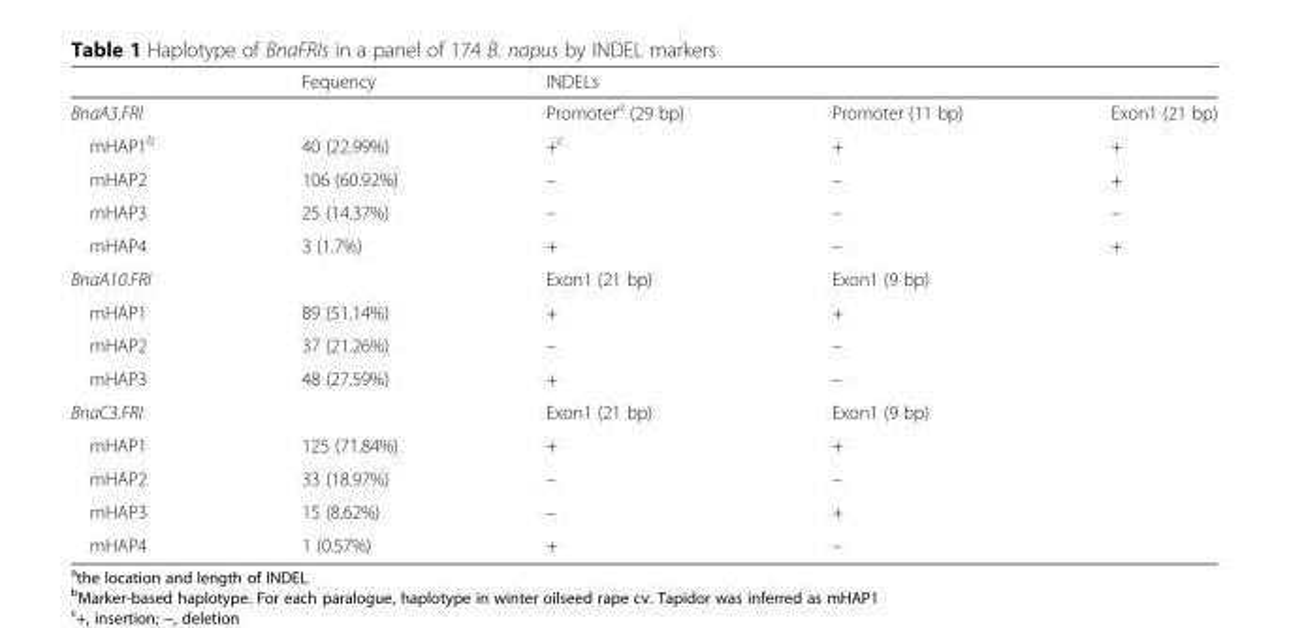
<table><thead><tr><td rowspan="2">BnaA3.FRI</td><td rowspan="2">Fequency</td><td colspan="3">INDELs</td></tr><tr><td>Promoter<sup>a</sup> (29 bp)</td><td>Promoter (11 bp)</td><td>Exon1 (21 bp)</td></tr></thead><tbody><tr><td>mHAP1<sup>b</sup></td><td>40 (22.99%)</td><td>+<sup>c</sup></td><td>+</td><td>+</td></tr><tr><td>mHAP2</td><td>106 (60.92%)</td><td>–</td><td>–</td><td>+</td></tr><tr><td>mHAP3</td><td>25 (14.37%)</td><td>–</td><td>–</td><td>–</td></tr><tr><td>mHAP4</td><td>3 (1.7%)</td><td>+</td><td>–</td><td>+</td></tr><tr><td>BnaA10.FRI</td><td></td><td>Exon1 (21 bp)</td><td>Exon1 (9 bp)</td><td></td></tr><tr><td>mHAP1</td><td>89 (51.14%)</td><td>+</td><td>+</td><td></td></tr><tr><td>mHAP2</td><td>37 (21.26%)</td><td>–</td><td>–</td><td></td></tr><tr><td>mHAP3</td><td>48 (27.59%)</td><td>+</td><td>–</td><td></td></tr><tr><td>BnaC3.FRI</td><td></td><td>Exon1 (21 bp)</td><td>Exon1 (9 bp)</td><td></td></tr><tr><td>mHAP1</td><td>125 (71.84%)</td><td>+</td><td>+</td><td></td></tr><tr><td>mHAP2</td><td>33 (18.97%)</td><td>–</td><td>–</td><td></td></tr><tr><td>mHAP3</td><td>15 (8.62%)</td><td>–</td><td>+</td><td></td></tr><tr><td>mHAP4</td><td>1 (0.57%)</td><td>+</td><td>–</td><td></td></tr></tbody></table>